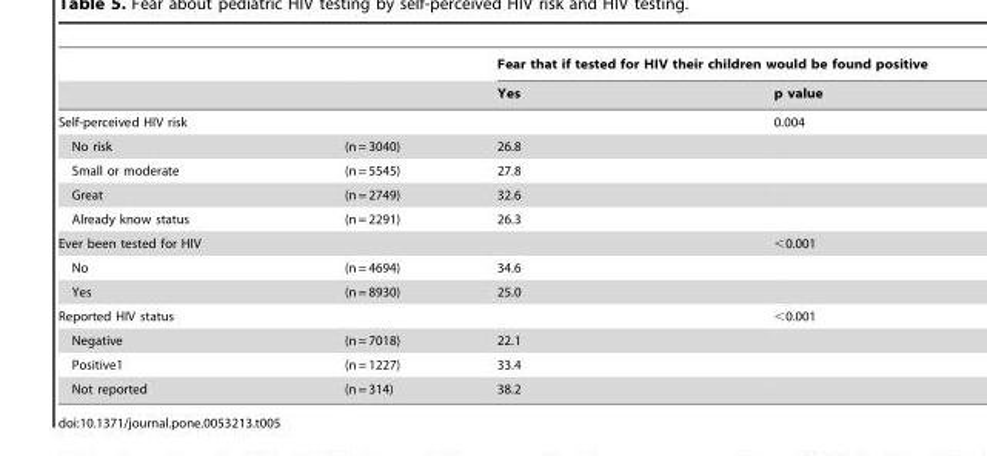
<table><thead><tr><td rowspan="2"></td><td rowspan="2"></td><td colspan="2">Fear that if tested for HIV their children would be found positive</td></tr><tr><td>Yes</td><td>p value</td></tr></thead><tbody><tr><td>Self-perceived HIV risk</td><td></td><td></td><td>0.004</td></tr><tr><td>No risk</td><td>(n = 3040)</td><td>26.8</td><td></td></tr><tr><td>Small or moderate</td><td>(n = 5545)</td><td>27.8</td><td></td></tr><tr><td>Great</td><td>(n = 2749)</td><td>32.6</td><td></td></tr><tr><td>Already know status</td><td>(n = 2291)</td><td>26.3</td><td></td></tr><tr><td>Ever been tested for HIV</td><td></td><td></td><td>&lt;0.001</td></tr><tr><td>No</td><td>(n = 4694)</td><td>34.6</td><td></td></tr><tr><td>Yes</td><td>(n = 8930)</td><td>25.0</td><td></td></tr><tr><td>Reported HIV status</td><td></td><td></td><td>&lt;0.001</td></tr><tr><td>Negative</td><td>(n = 7018)</td><td>22.1</td><td></td></tr><tr><td>Positive1</td><td>(n = 1227)</td><td>33.4</td><td></td></tr><tr><td>Not reported</td><td>(n = 314)</td><td>38.2</td><td></td></tr></tbody></table>